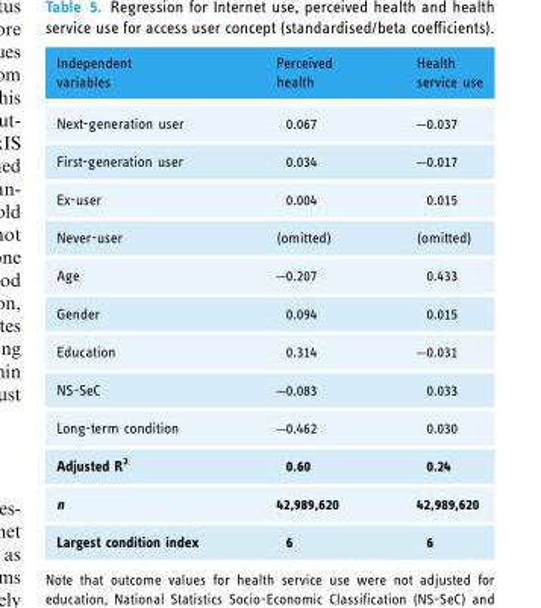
<table><thead><tr><td>Independent variables</td><td>Perceived health</td><td>Health service use</td></tr></thead><tbody><tr><td>Next-generation user</td><td>0.067</td><td>–0.037</td></tr><tr><td>First-generation user</td><td>0.034</td><td>–0.017</td></tr><tr><td>Ex-user</td><td>0.004</td><td>0.015</td></tr><tr><td>Never-user</td><td>(omitted)</td><td>(omitted)</td></tr><tr><td>Age</td><td>–0.207</td><td>0.433</td></tr><tr><td>Gender</td><td>0.094</td><td>0.015</td></tr><tr><td>Education</td><td>0.314</td><td>–0.031</td></tr><tr><td>NS-SeC</td><td>–0.083</td><td>0.033</td></tr><tr><td>Long-term condition</td><td>–0.462</td><td>0.030</td></tr><tr><td>Adjusted R<sup>2</sup></td><td>0.60</td><td>0.24</td></tr><tr><td>n</td><td>42,989,620</td><td>42,989,620</td></tr><tr><td>Largest condition index</td><td>6</td><td>6</td></tr></tbody></table>